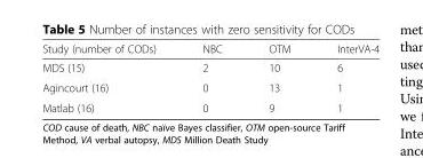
<table><thead><tr><td>Study (number of CODs)</td><td>NBC</td><td>OTM</td><td>InterVA-4</td></tr></thead><tbody><tr><td>MDS (15)</td><td>2</td><td>10</td><td>6</td></tr><tr><td>Agincourt (16)</td><td>0</td><td>13</td><td>1</td></tr><tr><td>Matlab (16)</td><td>0</td><td>9</td><td>1</td></tr></tbody></table>